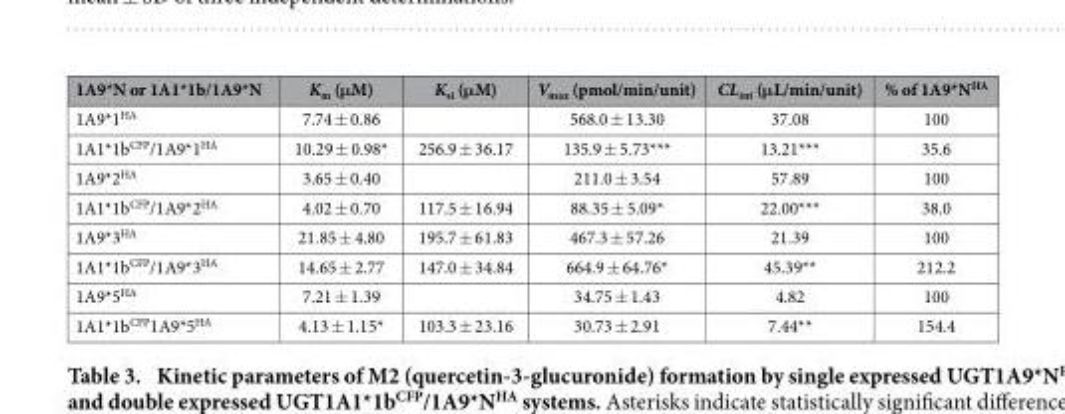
<table><thead><tr><td>1A9*N or 1A1*1b/1A9*N</td><td>K<sub>m</sub> (μM)</td><td>K<sub>si</sub> (μM)</td><td>V<sub>max</sub> (pmol/min/unit)</td><td>CL<sub>int</sub> (μL/min/unit)</td><td>% of 1A9*N<sup>HA</sup></td></tr></thead><tbody><tr><td>1A9*1<sup>HA</sup></td><td>7.74 ± 0.86</td><td></td><td>568.0 ± 13.30</td><td>37.08</td><td>100</td></tr><tr><td>1A1*1b<sup>CFP</sup>/1A9*1<sup>HA</sup></td><td>10.29 ± 0.98*</td><td>256.9 ± 36.17</td><td>135.9 ± 5.73***</td><td>13.21***</td><td>35.6</td></tr><tr><td>1A9*2<sup>HA</sup></td><td>3.65 ± 0.40</td><td></td><td>211.0 ± 3.54</td><td>57.89</td><td>100</td></tr><tr><td>1A1*1b<sup>CFP</sup>/1A9*2<sup>HA</sup></td><td>4.02 ± 0.70</td><td>117.5 ± 16.94</td><td>88.35 ± 5.09*</td><td>22.00***</td><td>38.0</td></tr><tr><td>1A9*3<sup>HA</sup></td><td>21.85 ± 4.80</td><td>195.7 ± 61.83</td><td>467.3 ± 57.26</td><td>21.39</td><td>100</td></tr><tr><td>1A1*1b<sup>CFP</sup>/1A9*3<sup>HA</sup></td><td>14.65 ± 2.77</td><td>147.0 ± 34.84</td><td>664.9 ± 64.76*</td><td>45.39**</td><td>212.2</td></tr><tr><td>1A9*5<sup>HA</sup></td><td>7.21 ± 1.39</td><td></td><td>34.75 ± 1.43</td><td>4.82</td><td>100</td></tr><tr><td>1A1*1b<sup>CFP</sup>1A9*5<sup>HA</sup></td><td>4.13 ± 1.15*</td><td>103.3 ± 23.16</td><td>30.73 ± 2.91</td><td>7.44**</td><td>154.4</td></tr></tbody></table>